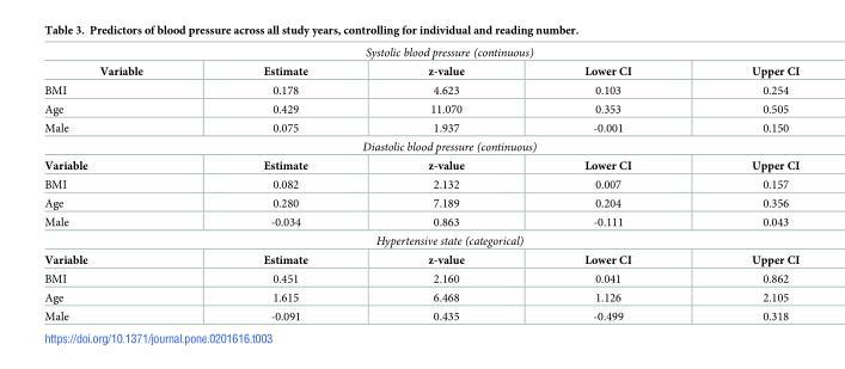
<table><tbody><tr><td colspan="5">Systolic blood pressure (continuous)</td></tr><tr><td>Variable</td><td>Estimate</td><td>z-value</td><td>Lower CI</td><td>Upper CI</td></tr><tr><td>BMI</td><td>0.178</td><td>4.623</td><td>0.103</td><td>0.254</td></tr><tr><td>Age</td><td>0.429</td><td>11.070</td><td>0.353</td><td>0.505</td></tr><tr><td>Male</td><td>0.075</td><td>1.937</td><td>-0.001</td><td>0.150</td></tr><tr><td colspan="5">Diastolic blood pressure (continuous)</td></tr><tr><td>Variable</td><td>Estimate</td><td>z-value</td><td>Lower CI</td><td>Upper CI</td></tr><tr><td>BMI</td><td>0.082</td><td>2.132</td><td>0.007</td><td>0.157</td></tr><tr><td>Age</td><td>0.280</td><td>7.189</td><td>0.204</td><td>0.356</td></tr><tr><td>Male</td><td>-0.034</td><td>0.863</td><td>-0.111</td><td>0.043</td></tr><tr><td colspan="5">Hypertensive state (categorical)</td></tr><tr><td>Variable</td><td>Estimate</td><td>z-value</td><td>Lower CI</td><td>Upper CI</td></tr><tr><td>BMI</td><td>0.451</td><td>2.160</td><td>0.041</td><td>0.862</td></tr><tr><td>Age</td><td>1.615</td><td>6.468</td><td>1.126</td><td>2.105</td></tr><tr><td>Male</td><td>-0.091</td><td>0.435</td><td>-0.499</td><td>0.318</td></tr></tbody></table>